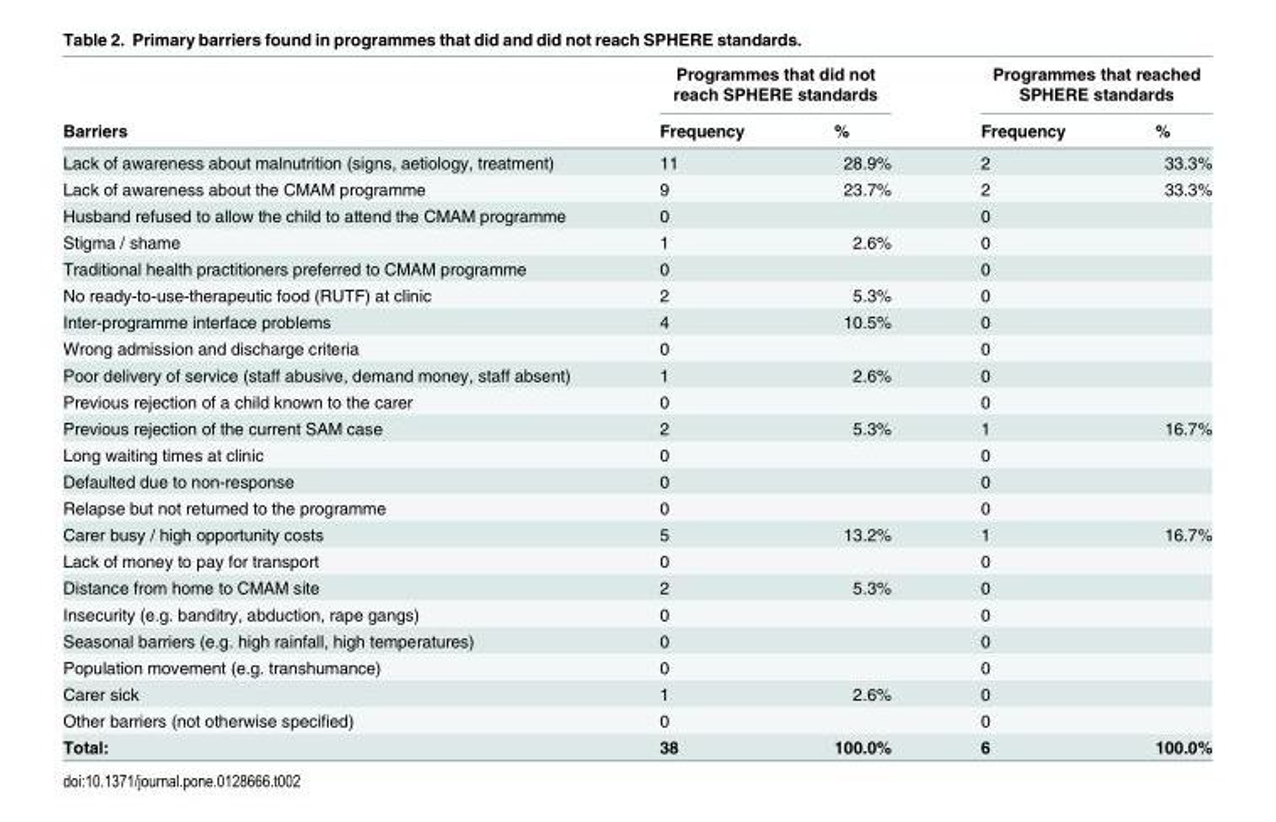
<table><thead><tr><td rowspan="2">Barriers</td><td colspan="2">Programmes that did not reach SPHERE standards</td><td colspan="2">Programmes that reached SPHERE standards</td></tr><tr><td>Frequency</td><td>%</td><td>Frequency</td><td>%</td></tr></thead><tbody><tr><td>Lack of awareness about malnutrition (signs, aetiology, treatment)</td><td>11</td><td>28.9%</td><td>2</td><td>33.3%</td></tr><tr><td>Lack of awareness about the CMAM programme</td><td>9</td><td>23.7%</td><td>2</td><td>33.3%</td></tr><tr><td>Husband refused to allow the child to attend the CMAM programme</td><td>0</td><td></td><td>0</td><td></td></tr><tr><td>Stigma / shame</td><td>1</td><td>2.6%</td><td>0</td><td></td></tr><tr><td>Traditional health practitioners preferred to CMAM programme</td><td>0</td><td></td><td>0</td><td></td></tr><tr><td>No ready-to-use-therapeutic food (RUTF) at clinic</td><td>2</td><td>5.3%</td><td>0</td><td></td></tr><tr><td>Inter-programme interface problems</td><td>4</td><td>10.5%</td><td>0</td><td></td></tr><tr><td>Wrong admission and discharge criteria</td><td>0</td><td></td><td>0</td><td></td></tr><tr><td>Poor delivery of service (staff abusive, demand money, staff absent)</td><td>1</td><td>2.6%</td><td>0</td><td></td></tr><tr><td>Previous rejection of a child known to the carer</td><td>0</td><td></td><td>0</td><td></td></tr><tr><td>Previous rejection of the current SAM case</td><td>2</td><td>5.3%</td><td>1</td><td>16.7%</td></tr><tr><td>Long waiting times at clinic</td><td>0</td><td></td><td>0</td><td></td></tr><tr><td>Defaulted due to non-response</td><td>0</td><td></td><td>0</td><td></td></tr><tr><td>Relapse but not returned to the programme</td><td>0</td><td></td><td>0</td><td></td></tr><tr><td>Carer busy / high opportunity costs</td><td>5</td><td>13.2%</td><td>1</td><td>16.7%</td></tr><tr><td>Lack of money to pay for transport</td><td>0</td><td></td><td>0</td><td></td></tr><tr><td>Distance from home to CMAM site</td><td>2</td><td>5.3%</td><td>0</td><td></td></tr><tr><td>Insecurity (e.g. banditry, abduction, rape gangs)</td><td>0</td><td></td><td>0</td><td></td></tr><tr><td>Seasonal barriers (e.g. high rainfall, high temperatures)</td><td>0</td><td></td><td>0</td><td></td></tr><tr><td>Population movement (e.g. transhumance)</td><td>0</td><td></td><td>0</td><td></td></tr><tr><td>Carer sick</td><td>1</td><td>2.6%</td><td>0</td><td></td></tr><tr><td>Other barriers (not otherwise specified)</td><td>0</td><td></td><td>0</td><td></td></tr><tr><td>Total:</td><td>38</td><td>100.0%</td><td>6</td><td>100.0%</td></tr></tbody></table>